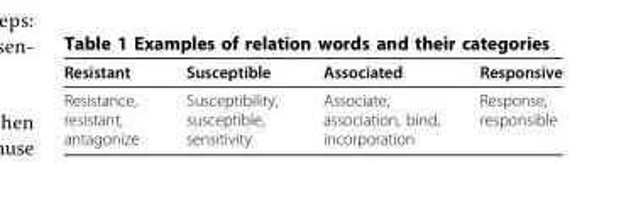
<table><thead><tr><td>Resistant</td><td>Susceptible</td><td>Associated</td><td>Responsive</td></tr></thead><tbody><tr><td>Resistance, resistant, antagonize</td><td>Susceptibility, susceptible, sensitivity</td><td>Associate, association, bind, incorporation</td><td>Response, responsible</td></tr></tbody></table>